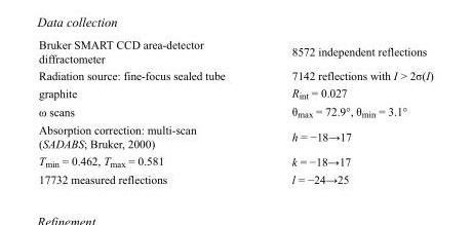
<table><tbody><tr><td>Bruker SMART CCD area-detector diffractometer</td><td>8572 independent reflections</td></tr><tr><td>Radiation source: fine-focus sealed tube</td><td>7142 reflections with I &gt; 2σ(I)</td></tr><tr><td>graphite</td><td>R<sub>int</sub> = 0.027</td></tr><tr><td>ω scans</td><td>θ<sub>max</sub> = 72.9°, θ<sub>min</sub> = 3.1°</td></tr><tr><td>Absorption correction: multi-scan (SADABS; Bruker, 2000)</td><td>h = −18→17</td></tr><tr><td>T<sub>min</sub> = 0.462, T<sub>max</sub> = 0.581</td><td>k = −18→17</td></tr><tr><td>17732 measured reflections</td><td>l = −24→25</td></tr></tbody></table>